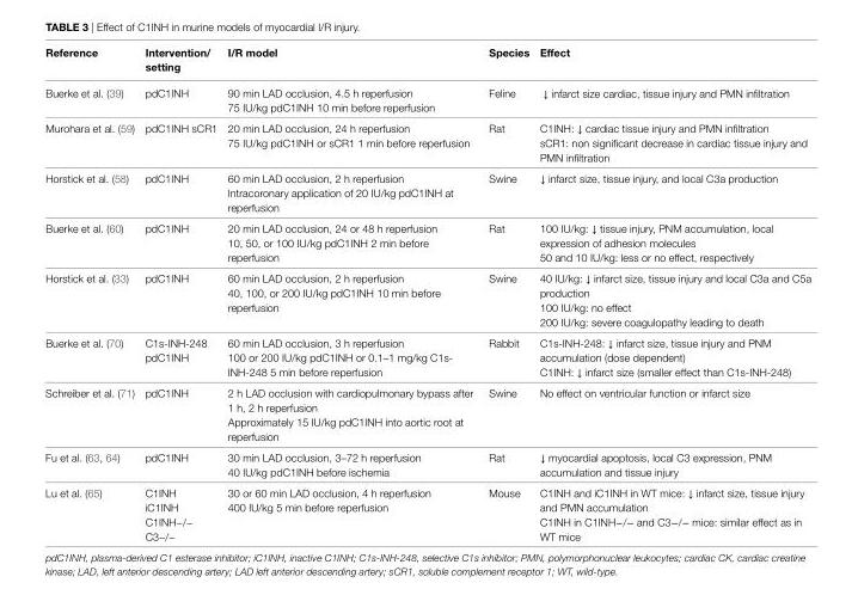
<table><thead><tr><td>Reference</td><td>intervention/ setting</td><td>i/R model</td><td>Species</td><td>effect</td></tr></thead><tbody><tr><td>Buerke et al. (39)</td><td>pdC1INH</td><td>90 min LAD occlusion, 4.5 h reperfusion 75 IU/kg pdC1INH 10 min before reperfusion</td><td>Feline</td><td>↓ infarct size cardiac, tissue injury and PMN infiltration</td></tr><tr><td>Murohara et al. (59)</td><td>pdC1INH sCR1</td><td>20 min LAD occlusion, 24 h reperfusion 75 IU/kg pdC1INH or sCR1 1 min before reperfusion</td><td>Rat</td><td>C1INH: ↓ cardiac tissue injury and PMN infiltration sCR1: non significant decrease in cardiac tissue injury and PMN infiltration</td></tr><tr><td>Horstick et al. (58)</td><td>pdC1INH</td><td>60 min LAD occlusion, 2 h reperfusion Intracoronary application of 20 IU/kg pdC1INH at reperfusion</td><td>Swine</td><td>↓ infarct size, tissue injury, and local C3a production</td></tr><tr><td>Buerke et al. (60)</td><td>pdC1INH</td><td>20 min LAD occlusion, 24 or 48 h reperfusion 10, 50, or 100 IU/kg pdC1INH 2 min before reperfusion</td><td>Rat</td><td>100 IU/kg: ↓ tissue injury, PNM accumulation, local expression of adhesion molecules 50 and 10 IU/kg: less or no effect, respectively</td></tr><tr><td>Horstick et al. (33)</td><td>pdC1INH</td><td>60 min LAD occlusion, 2 h reperfusion 40, 100, or 200 IU/kg pdC1INH 10 min before reperfusion</td><td>Swine</td><td>40 IU/kg: ↓ infarct size, tissue injury and local C3a and C5a production 100 IU/kg: no effect 200 IU/kg: severe coagulopathy leading to death</td></tr><tr><td>Buerke et al. (70)</td><td>C1s-INH-248 pdC1INH</td><td>60 min LAD occlusion, 3 h reperfusion 100 or 200 IU/kg pdC1INH or 0.1–1 mg/kg C1s- INH-248 5 min before reperfusion</td><td>Rabbit</td><td>C1s-INH-248: ↓ infarct size, tissue injury and PNM accumulation (dose dependent) C1INH: ↓ infarct size (smaller effect than C1s-INH-248)</td></tr><tr><td>Schreiber et al. (71)</td><td>pdC1INH</td><td>2 h LAD occlusion with cardiopulmonary bypass after 1 h, 2 h reperfusion Approximately 15 IU/kg pdC1INH into aortic root at reperfusion</td><td>Swine</td><td>No effect on ventricular function or infarct size</td></tr><tr><td>Fu et al. (63, 64)</td><td>pdC1INH</td><td>30 min LAD occlusion, 3–72 h reperfusion 40 IU/kg pdC1INH before ischemia</td><td>Rat</td><td>↓ myocardial apoptosis, local C3 expression, PNM accumulation and tissue injury</td></tr><tr><td>Lu et al. (65)</td><td>C1INH iC1INH C1INH−/− C3−/−</td><td>30 or 60 min LAD occlusion, 4 h reperfusion 400 IU/kg 5 min before reperfusion</td><td>Mouse</td><td>C1INH and iC1INH in WT mice: ↓ infarct size, tissue injury and PMN accumulation C1INH in C1INH−/− and C3−/− mice: similar effect as in WT mice</td></tr></tbody></table>